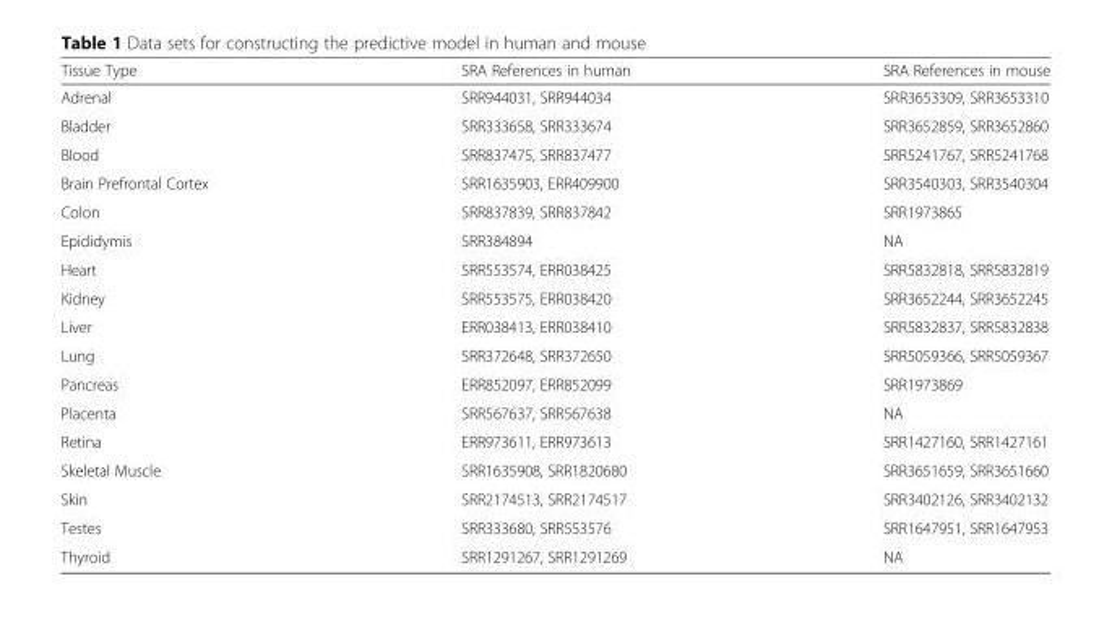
<table><thead><tr><td>Tissue Type</td><td>SRA References in human</td><td>SRA References in mouse</td></tr></thead><tbody><tr><td>Adrenal</td><td>SRR944031, SRR944034</td><td>SRR3653309, SRR3653310</td></tr><tr><td>Bladder</td><td>SRR333658, SRR333674</td><td>SRR3652859, SRR3652860</td></tr><tr><td>Blood</td><td>SRR837475, SRR837477</td><td>SRR5241767, SRR5241768</td></tr><tr><td>Brain Prefrontal Cortex</td><td>SRR1635903, ERR409900</td><td>SRR3540303, SRR3540304</td></tr><tr><td>Colon</td><td>SRR837839, SRR837842</td><td>SRR1973865</td></tr><tr><td>Epididymis</td><td>SRR384894</td><td>NA</td></tr><tr><td>Heart</td><td>SRR553574, ERR038425</td><td>SRR5832818, SRR5832819</td></tr><tr><td>Kidney</td><td>SRR553575, ERR038420</td><td>SRR3652244, SRR3652245</td></tr><tr><td>Liver</td><td>ERR038413, ERR038410</td><td>SRR5832837, SRR5832838</td></tr><tr><td>Lung</td><td>SRR372648, SRR372650</td><td>SRR5059366, SRR5059367</td></tr><tr><td>Pancreas</td><td>ERR852097, ERR852099</td><td>SRR1973869</td></tr><tr><td>Placenta</td><td>SRR567637, SRR567638</td><td>NA</td></tr><tr><td>Retina</td><td>ERR973611, ERR973613</td><td>SRR1427160, SRR1427161</td></tr><tr><td>Skeletal Muscle</td><td>SRR1635908, SRR1820680</td><td>SRR3651659, SRR3651660</td></tr><tr><td>Skin</td><td>SRR2174513, SRR2174517</td><td>SRR3402126, SRR3402132</td></tr><tr><td>Testes</td><td>SRR333680, SRR553576</td><td>SRR1647951, SRR1647953</td></tr><tr><td>Thyroid</td><td>SRR1291267, SRR1291269</td><td>NA</td></tr></tbody></table>